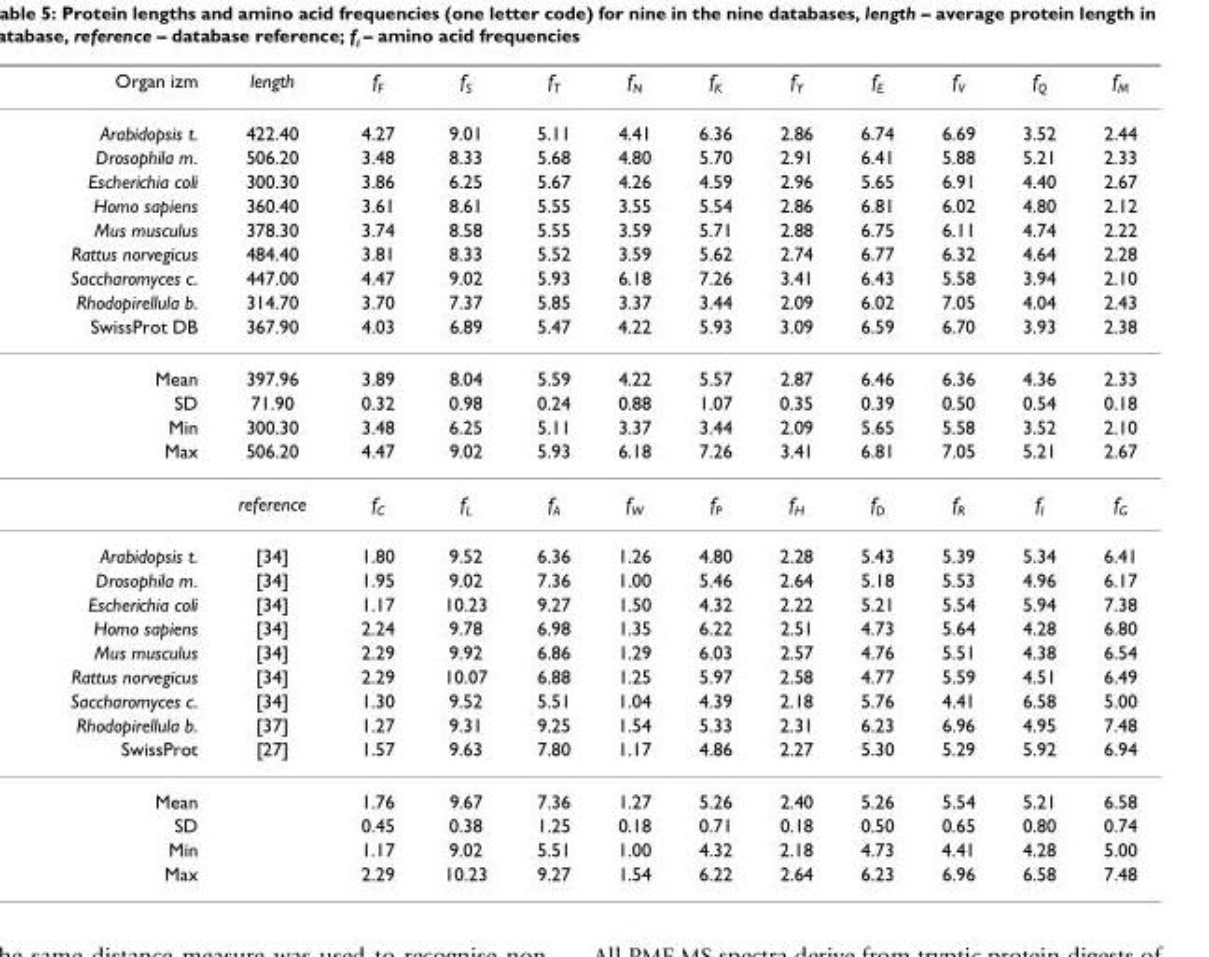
<table><thead><tr><td>Organ izm</td><td>length</td><td>f<sub>F</sub></td><td>f<sub>S</sub></td><td>f<sub>T</sub></td><td>f<sub>N</sub></td><td>f<sub>K</sub></td><td>f<sub>Y</sub></td><td>f<sub>E</sub></td><td>f<sub>V</sub></td><td>f<sub>Q</sub></td><td>f<sub>M</sub></td></tr></thead><tbody><tr><td>Arabidopsis t.</td><td>422.40</td><td>4.27</td><td>9.01</td><td>5.11</td><td>4.41</td><td>6.36</td><td>2.86</td><td>6.74</td><td>6.69</td><td>3.52</td><td>2.44</td></tr><tr><td>Drosophila m.</td><td>506.20</td><td>3.48</td><td>8.33</td><td>5.68</td><td>4.80</td><td>5.70</td><td>2.91</td><td>6.41</td><td>5.88</td><td>5.21</td><td>2.33</td></tr><tr><td>Escherichia coli</td><td>300.30</td><td>3.86</td><td>6.25</td><td>5.67</td><td>4.26</td><td>4.59</td><td>2.96</td><td>5.65</td><td>6.91</td><td>4.40</td><td>2.67</td></tr><tr><td>Homo sapiens</td><td>360.40</td><td>3.61</td><td>8.61</td><td>5.55</td><td>3.55</td><td>5.54</td><td>2.86</td><td>6.81</td><td>6.02</td><td>4.80</td><td>2.12</td></tr><tr><td>Mus musculus</td><td>378.30</td><td>3.74</td><td>8.58</td><td>5.55</td><td>3.59</td><td>5.71</td><td>2.88</td><td>6.75</td><td>6.11</td><td>4.74</td><td>2.22</td></tr><tr><td>Rattus norvegicus</td><td>484.40</td><td>3.81</td><td>8.33</td><td>5.52</td><td>3.59</td><td>5.62</td><td>2.74</td><td>6.77</td><td>6.32</td><td>4.64</td><td>2.28</td></tr><tr><td>Saccharomyces c.</td><td>447.00</td><td>4.47</td><td>9.02</td><td>5.93</td><td>6.18</td><td>7.26</td><td>3.41</td><td>6.43</td><td>5.58</td><td>3.94</td><td>2.10</td></tr><tr><td>Rhodopirellula b.</td><td>314.70</td><td>3.70</td><td>7.37</td><td>5.85</td><td>3.37</td><td>3.44</td><td>2.09</td><td>6.02</td><td>7.05</td><td>4.04</td><td>2.43</td></tr><tr><td>SwissProt DB</td><td>367.90</td><td>4.03</td><td>6.89</td><td>5.47</td><td>4.22</td><td>5.93</td><td>3.09</td><td>6.59</td><td>6.70</td><td>3.93</td><td>2.38</td></tr><tr><td>Mean</td><td>397.96</td><td>3.89</td><td>8.04</td><td>5.59</td><td>4.22</td><td>5.57</td><td>2.87</td><td>6.46</td><td>6.36</td><td>4.36</td><td>2.33</td></tr><tr><td>SD</td><td>71.90</td><td>0.32</td><td>0.98</td><td>0.24</td><td>0.88</td><td>1.07</td><td>0.35</td><td>0.39</td><td>0.50</td><td>0.54</td><td>0.18</td></tr><tr><td>Min</td><td>300.30</td><td>3.48</td><td>6.25</td><td>5.11</td><td>3.37</td><td>3.44</td><td>2.09</td><td>5.65</td><td>5.58</td><td>3.52</td><td>2.10</td></tr><tr><td rowspan="2">Max</td><td>506.20</td><td>4.47</td><td>9.02</td><td>5.93</td><td>6.18</td><td>7.26</td><td>3.41</td><td>6.81</td><td>7.05</td><td>5.21</td><td>2.67</td></tr><tr><td>reference</td><td>f<sub>C</sub></td><td>f<sub>L</sub></td><td>f<sub>A</sub></td><td>f<sub>W</sub></td><td>f<sub>P</sub></td><td>f<sub>H</sub></td><td>f<sub>D</sub></td><td>f<sub>R</sub></td><td>f<sub>I</sub></td><td>f<sub>G</sub></td></tr><tr><td>Arabidopsis t.</td><td>[34]</td><td>1.80</td><td>9.52</td><td>6.36</td><td>1.26</td><td>4.80</td><td>2.28</td><td>5.43</td><td>5.39</td><td>5.34</td><td>6.41</td></tr><tr><td>Drosophila m.</td><td>[34]</td><td>1.95</td><td>9.02</td><td>7.36</td><td>1.00</td><td>5.46</td><td>2.64</td><td>5.18</td><td>5.53</td><td>4.96</td><td>6.17</td></tr><tr><td>Escherichia coli</td><td>[34]</td><td>1.17</td><td>10.23</td><td>9.27</td><td>1.50</td><td>4.32</td><td>2.22</td><td>5.21</td><td>5.54</td><td>5.94</td><td>7.38</td></tr><tr><td>Homo sapiens</td><td>[34]</td><td>2.24</td><td>9.78</td><td>6.98</td><td>1.35</td><td>6.22</td><td>2.51</td><td>4.73</td><td>5.64</td><td>4.28</td><td>6.80</td></tr><tr><td>Mus musculus</td><td>[34]</td><td>2.29</td><td>9.92</td><td>6.86</td><td>1.29</td><td>6.03</td><td>2.57</td><td>4.76</td><td>5.51</td><td>4.38</td><td>6.54</td></tr><tr><td>Rattus norvegicus</td><td>[34]</td><td>2.29</td><td>10.07</td><td>6.88</td><td>1.25</td><td>5.97</td><td>2.58</td><td>4.77</td><td>5.59</td><td>4.51</td><td>6.49</td></tr><tr><td>Saccharomyces c.</td><td>[34]</td><td>1.30</td><td>9.52</td><td>5.51</td><td>1.04</td><td>4.39</td><td>2.18</td><td>5.76</td><td>4.41</td><td>6.58</td><td>5.00</td></tr><tr><td>Rhodopirellula b.</td><td>[37]</td><td>1.27</td><td>9.31</td><td>9.25</td><td>1.54</td><td>5.33</td><td>2.31</td><td>6.23</td><td>6.96</td><td>4.95</td><td>7.48</td></tr><tr><td>SwissProt</td><td>[27]</td><td>1.57</td><td>9.63</td><td>7.80</td><td>1.17</td><td>4.86</td><td>2.27</td><td>5.30</td><td>5.29</td><td>5.92</td><td>6.94</td></tr><tr><td>Mean</td><td></td><td>1.76</td><td>9.67</td><td>7.36</td><td>1.27</td><td>5.26</td><td>2.40</td><td>5.26</td><td>5.54</td><td>5.21</td><td>6.58</td></tr><tr><td>SD</td><td></td><td>0.45</td><td>0.38</td><td>1.25</td><td>0.18</td><td>0.71</td><td>0.18</td><td>0.50</td><td>0.65</td><td>0.80</td><td>0.74</td></tr><tr><td>Min</td><td></td><td>1.17</td><td>9.02</td><td>5.51</td><td>1.00</td><td>4.32</td><td>2.18</td><td>4.73</td><td>4.41</td><td>4.28</td><td>5.00</td></tr><tr><td>Max</td><td></td><td>2.29</td><td>10.23</td><td>9.27</td><td>1.54</td><td>6.22</td><td>2.64</td><td>6.23</td><td>6.96</td><td>6.58</td><td>7.48</td></tr></tbody></table>